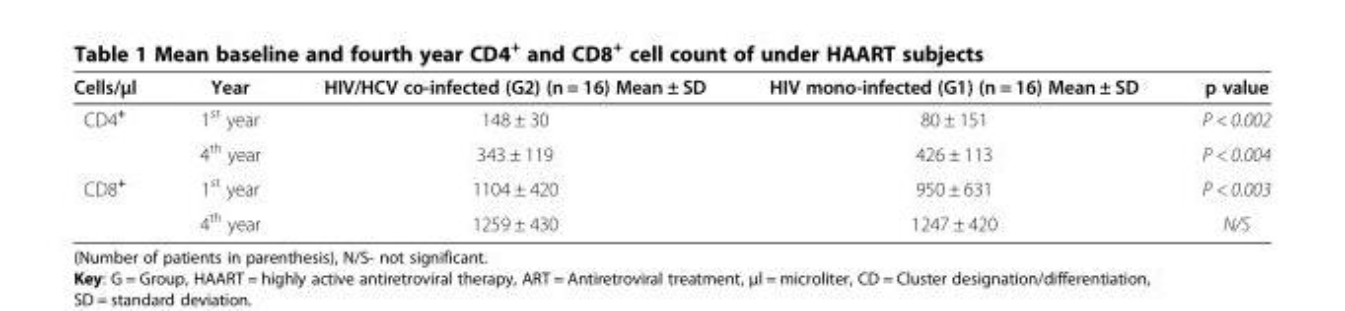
<table><thead><tr><td>Cells/μl</td><td>Year</td><td>HIV/HCV co-infected (G2) (n = 16) Mean ± SD</td><td>HIV mono-infected (G1) (n = 16) Mean ± SD</td><td>p value</td></tr></thead><tbody><tr><td rowspan="2">CD4<sup>+</sup></td><td>1<sup>st</sup> year</td><td>148 ± 30</td><td>80 ± 151</td><td>P &lt; 0.002</td></tr><tr><td>4<sup>th</sup> year</td><td>343 ± 119</td><td>426 ± 113</td><td>P &lt; 0.004</td></tr><tr><td rowspan="2">CD8<sup>+</sup></td><td>1<sup>st</sup> year</td><td>1104 ± 420</td><td>950 ± 631</td><td>P &lt; 0.003</td></tr><tr><td>4<sup>th</sup> year</td><td>1259 ± 430</td><td>1247 ± 420</td><td>N/S</td></tr></tbody></table>